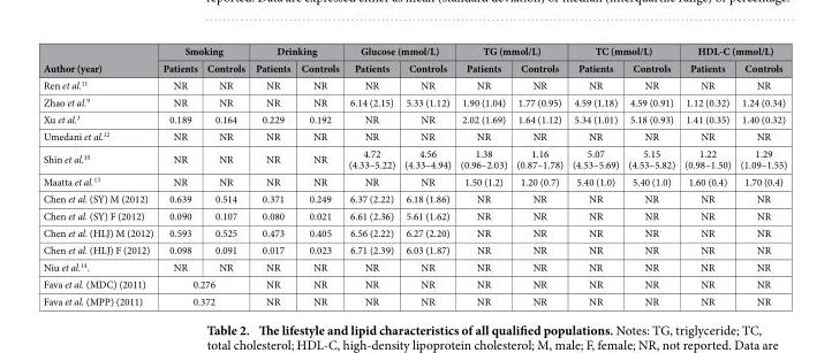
<table><thead><tr><td rowspan="2">Author (year)</td><td colspan="2">Smoking</td><td colspan="2">Drinking</td><td colspan="2">Glucose (mmol/L)</td><td colspan="2">TG (mmol/L)</td><td colspan="2">TC (mmol/L)</td><td colspan="2">HDL-C (mmol/L)</td></tr><tr><td>Patients</td><td>Controls</td><td>Patients</td><td>Controls</td><td>Patients</td><td>Controls</td><td>Patients</td><td>Controls</td><td>Patients</td><td>Controls</td><td>Patients</td><td>Controls</td></tr></thead><tbody><tr><td>Ren et al.<sup>11</sup></td><td>NR</td><td>NR</td><td>NR</td><td>NR</td><td>NR</td><td>NR</td><td>NR</td><td>NR</td><td>NR</td><td>NR</td><td>NR</td><td>NR</td></tr><tr><td>Zhao et al.<sup>9</sup></td><td>NR</td><td>NR</td><td>NR</td><td>NR</td><td>6.14 (2.15)</td><td>5.33 (1.12)</td><td>1.90 (1.04)</td><td>1.77 (0.95)</td><td>4.59 (1.18)</td><td>4.59 (0.91)</td><td>1.12 (0.32)</td><td>1.24 (0.34)</td></tr><tr><td>Xu et al.<sup>3</sup></td><td>0.189</td><td>0.164</td><td>0.229</td><td>0.192</td><td>NR</td><td>NR</td><td>2.02 (1.69)</td><td>1.64 (1.12)</td><td>5.34 (1.01)</td><td>5.18 (0.93)</td><td>1.41 (0.35)</td><td>1.40 (0.32)</td></tr><tr><td>Umedani et al.<sup>12</sup></td><td>NR</td><td>NR</td><td>NR</td><td>NR</td><td>NR</td><td>NR</td><td>NR</td><td>NR</td><td>NR</td><td>NR</td><td>NR</td><td>NR</td></tr><tr><td>Shin et al.<sup>10</sup></td><td>NR</td><td>NR</td><td>NR</td><td>NR</td><td>4.72 (4.33–5.22)</td><td>4.56 (4.33–4.94)</td><td>1.38 (0.96–2.03)</td><td>1.16 (0.87–1.78)</td><td>5.07 (4.53–5.69)</td><td>5.15 (4.53–5.82)</td><td>1.22 (0.98–1.50)</td><td>1.29 (1.09–1.55)</td></tr><tr><td>Maatta et al.<sup>13</sup></td><td>NR</td><td>NR</td><td>NR</td><td>NR</td><td>NR</td><td>NR</td><td>1.50 (1.2)</td><td>1.20 (0.7)</td><td>5.40 (1.0)</td><td>5.40 (1.0)</td><td>1.60 (0.4)</td><td>1.70 (0.4)</td></tr><tr><td>Chen et al. (SY) M (2012)</td><td>0.639</td><td>0.514</td><td>0.371</td><td>0.249</td><td>6.37 (2.22)</td><td>6.18 (1.86)</td><td>NR</td><td>NR</td><td>NR</td><td>NR</td><td>NR</td><td>NR</td></tr><tr><td>Chen et al. (SY) F (2012)</td><td>0.090</td><td>0.107</td><td>0.080</td><td>0.021</td><td>6.61 (2.36)</td><td>5.61 (1.62)</td><td>NR</td><td>NR</td><td>NR</td><td>NR</td><td>NR</td><td>NR</td></tr><tr><td>Chen et al. (HLJ) M (2012)</td><td>0.593</td><td>0.525</td><td>0.473</td><td>0.405</td><td>6.56 (2.22)</td><td>6.27 (2.20)</td><td>NR</td><td>NR</td><td>NR</td><td>NR</td><td>NR</td><td>NR</td></tr><tr><td>Chen et al. (HLJ) F (2012)</td><td>0.098</td><td>0.091</td><td>0.017</td><td>0.023</td><td>6.71 (2.39)</td><td>6.03 (1.87)</td><td>NR</td><td>NR</td><td>NR</td><td>NR</td><td>NR</td><td>NR</td></tr><tr><td>Niu et al.<sup>14</sup>.</td><td>NR</td><td>NR</td><td>NR</td><td>NR</td><td>NR</td><td>NR</td><td>NR</td><td>NR</td><td>NR</td><td>NR</td><td>NR</td><td>NR</td></tr><tr><td>Fava et al. (MDC) (2011)</td><td colspan="2">0.276</td><td>NR</td><td>NR</td><td>NR</td><td>NR</td><td>NR</td><td>NR</td><td>NR</td><td>NR</td><td>NR</td><td>NR</td></tr><tr><td>Fava et al. (MPP) (2011)</td><td colspan="2">0.372</td><td>NR</td><td>NR</td><td>NR</td><td>NR</td><td>NR</td><td>NR</td><td>NR</td><td>NR</td><td>NR</td><td>NR</td></tr></tbody></table>